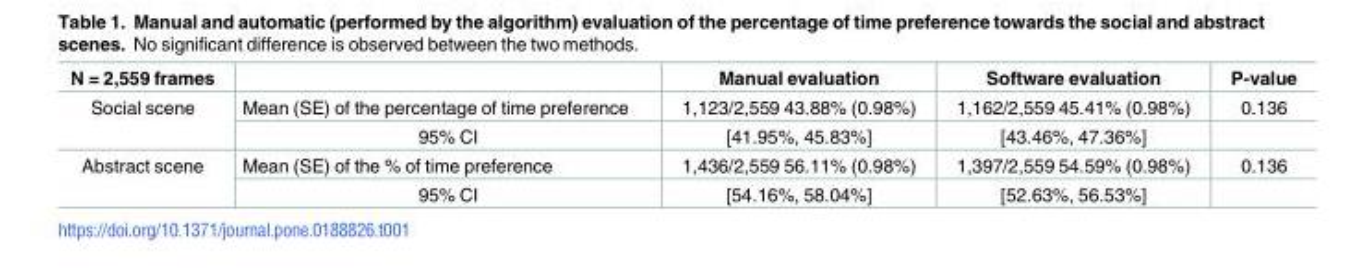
<table><thead><tr><td>N = 2,559 frames</td><td></td><td>Manual evaluation</td><td>Software evaluation</td><td>P-value</td></tr></thead><tbody><tr><td rowspan="2">Social scene</td><td>Mean (SE) of the percentage of time preference</td><td>1,123/2,559 43.88% (0.98%)</td><td>1,162/2,559 45.41% (0.98%)</td><td>0.136</td></tr><tr><td>95% CI</td><td>[41.95%, 45.83%]</td><td>[43.46%, 47.36%]</td><td></td></tr><tr><td rowspan="2">Abstract scene</td><td>Mean (SE) of the % of time preference</td><td>1,436/2,559 56.11% (0.98%)</td><td>1,397/2,559 54.59% (0.98%)</td><td>0.136</td></tr><tr><td>95% CI</td><td>[54.16%, 58.04%]</td><td>[52.63%, 56.53%]</td><td></td></tr></tbody></table>